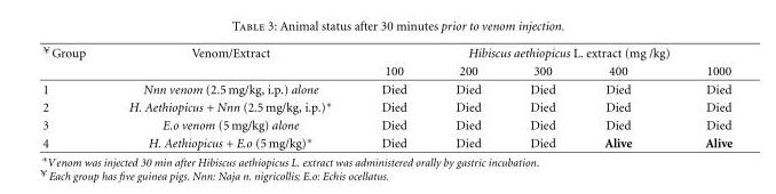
<table><thead><tr><td rowspan="2"><sup>¥</sup>Group</td><td rowspan="2">Venom/Extract</td><td colspan="5">Hibiscus aethiopicus L. extract (mg /kg)</td></tr><tr><td>100</td><td>200</td><td>300</td><td>400</td><td>1000</td></tr></thead><tbody><tr><td>1</td><td>Nnn venom (2.5 mg/kg, i.p.) alone</td><td>Died</td><td>Died</td><td>Died</td><td>Died</td><td>Died</td></tr><tr><td>2</td><td>H. Aethiopicus + Nnn (2.5 mg/kg, i.p.)∗</td><td>Died</td><td>Died</td><td>Died</td><td>Died</td><td>Died</td></tr><tr><td>3</td><td>E.o venom (5 mg/kg) alone</td><td>Died</td><td>Died</td><td>Died</td><td>Died</td><td>Died</td></tr><tr><td>4</td><td>H. Aethiopicus + E.o (5 mg/kg)∗</td><td>Died</td><td>Died</td><td>Died</td><td>Alive</td><td>Alive</td></tr></tbody></table>